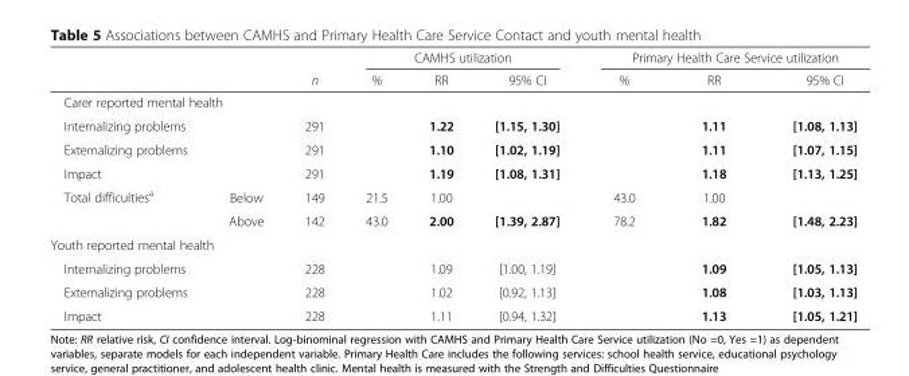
<table><thead><tr><td rowspan="2"></td><td rowspan="2"></td><td rowspan="2">n</td><td colspan="3">CAMHS utilization</td><td colspan="3">Primary Health Care Service utilization</td></tr><tr><td>%</td><td>RR</td><td>95% CI</td><td>%</td><td>RR</td><td>95% CI</td></tr></thead><tbody><tr><td colspan="9">Carer reported mental health</td></tr><tr><td>Internalizing problems</td><td></td><td>291</td><td></td><td>1.22</td><td>[1.15, 1.30]</td><td></td><td>1.11</td><td>[1.08, 1.13]</td></tr><tr><td>Externalizing problems</td><td></td><td>291</td><td></td><td>1.10</td><td>[1.02, 1.19]</td><td></td><td>1.11</td><td>[1.07, 1.15]</td></tr><tr><td>Impact</td><td></td><td>291</td><td></td><td>1.19</td><td>[1.08, 1.31]</td><td></td><td>1.18</td><td>[1.13, 1.25]</td></tr><tr><td rowspan="2">Total difficulties<sup>a</sup></td><td>Below</td><td>149</td><td>21.5</td><td>1.00</td><td></td><td>43.0</td><td>1.00</td><td></td></tr><tr><td>Above</td><td>142</td><td>43.0</td><td>2.00</td><td>[1.39, 2.87]</td><td>78.2</td><td>1.82</td><td>[1.48, 2.23]</td></tr><tr><td colspan="9">Youth reported mental health</td></tr><tr><td>Internalizing problems</td><td></td><td>228</td><td></td><td>1.09</td><td>[1.00, 1.19]</td><td></td><td>1.09</td><td>[1.05, 1.13]</td></tr><tr><td>Externalizing problems</td><td></td><td>228</td><td></td><td>1.02</td><td>[0.92, 1.13]</td><td></td><td>1.08</td><td>[1.03, 1.13]</td></tr><tr><td>Impact</td><td></td><td>228</td><td></td><td>1.11</td><td>[0.94, 1.32]</td><td></td><td>1.13</td><td>[1.05, 1.21]</td></tr></tbody></table>